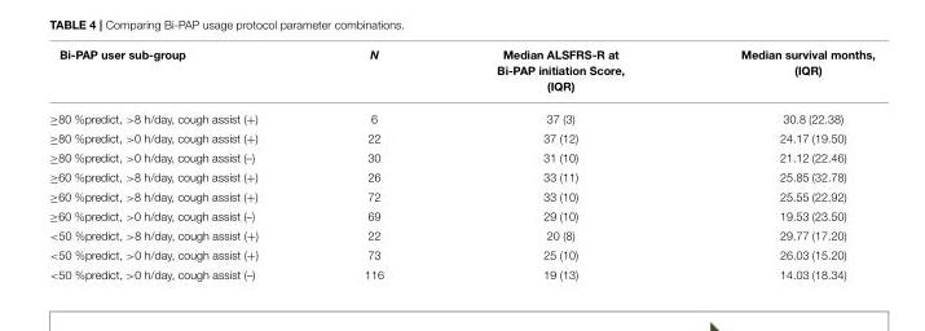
<table><thead><tr><td>Bi-PAP user sub-group</td><td>N</td><td>Median ALSFRS-R at Bi-PAP initiation Score, (IQR)</td><td>Median survival months, (IQR)</td></tr></thead><tbody><tr><td>≥80 %predict, &gt;8 h/day, cough assist (+)</td><td>6</td><td>37 (3)</td><td>30.8 (22.38)</td></tr><tr><td>≥80 %predict, &gt;0 h/day, cough assist (+)</td><td>22</td><td>37 (12)</td><td>24.17 (19.50)</td></tr><tr><td>≥80 %predict, &gt;0 h/day, cough assist (–)</td><td>30</td><td>31 (10)</td><td>21.12 (22.46)</td></tr><tr><td>≥60 %predict, &gt;8 h/day, cough assist (+)</td><td>26</td><td>33 (11)</td><td>25.85 (32.78)</td></tr><tr><td>≥60 %predict, &gt;8 h/day, cough assist (+)</td><td>72</td><td>33 (10)</td><td>25.55 (22.92)</td></tr><tr><td>≥60 %predict, &gt;0 h/day, cough assist (–)</td><td>69</td><td>29 (10)</td><td>19.53 (23.50)</td></tr><tr><td>&lt;50 %predict, &gt;8 h/day, cough assist (+)</td><td>22</td><td>20 (8)</td><td>29.77 (17.20)</td></tr><tr><td>&lt;50 %predict, &gt;0 h/day, cough assist (+)</td><td>73</td><td>25 (10)</td><td>26.03 (15.20)</td></tr><tr><td>&lt;50 %predict, &gt;0 h/day, cough assist (–)</td><td>116</td><td>19 (13)</td><td>14.03 (18.34)</td></tr></tbody></table>